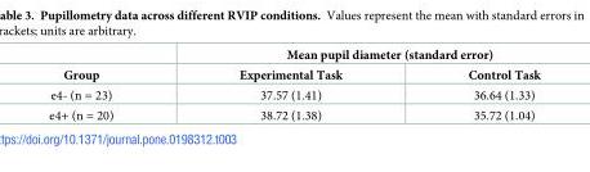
<table><thead><tr><td rowspan="2">Group</td><td colspan="2">Mean pupil diameter (standard error)</td></tr><tr><td>Experimental Task</td><td>Control Task</td></tr></thead><tbody><tr><td>e4- (n = 23)</td><td>37.57 (1.41)</td><td>36.64 (1.33)</td></tr><tr><td>e4+ (n = 20)</td><td>38.72 (1.38)</td><td>35.72 (1.04)</td></tr></tbody></table>